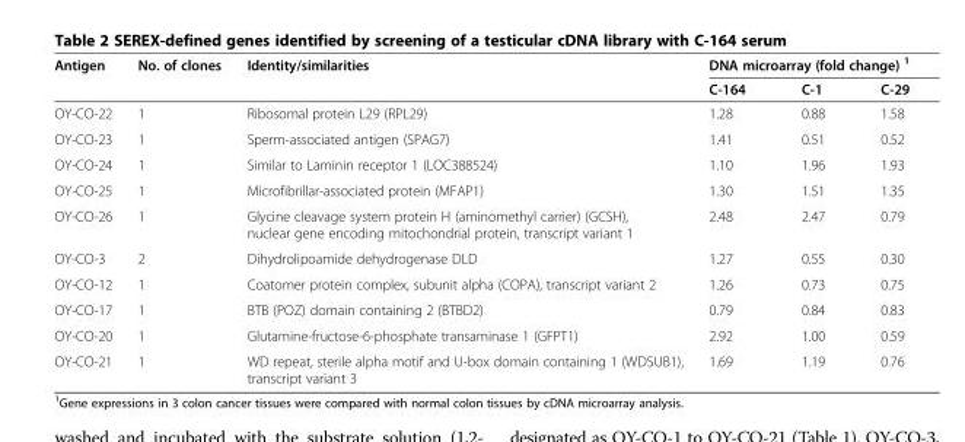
<table><thead><tr><td rowspan="2">Antigen</td><td rowspan="2">No. of clones</td><td rowspan="2">Identity/similarities</td><td colspan="3">DNA microarray (fold change) <sup>1</sup></td></tr><tr><td>C-164</td><td>C-1</td><td>C-29</td></tr></thead><tbody><tr><td>OY-CO-22</td><td>1</td><td>Ribosomal protein L29 (RPL29)</td><td>1.28</td><td>0.88</td><td>1.58</td></tr><tr><td>OY-CO-23</td><td>1</td><td>Sperm-associated antigen (SPAG7)</td><td>1.41</td><td>0.51</td><td>0.52</td></tr><tr><td>OY-CO-24</td><td>1</td><td>Similar to Laminin receptor 1 (LOC388524)</td><td>1.10</td><td>1.96</td><td>1.93</td></tr><tr><td>OY-CO-25</td><td>1</td><td>Microfibrillar-associated protein (MFAP1)</td><td>1.30</td><td>1.51</td><td>1.35</td></tr><tr><td>OY-CO-26</td><td>1</td><td>Glycine cleavage system protein H (aminomethyl carrier) (GCSH), nuclear gene encoding mitochondrial protein, transcript variant 1</td><td>2.48</td><td>2.47</td><td>0.79</td></tr><tr><td>OY-CO-3</td><td>2</td><td>Dihydrolipoamide dehydrogenase DLD</td><td>1.27</td><td>0.55</td><td>0.30</td></tr><tr><td>OY-CO-12</td><td>1</td><td>Coatomer protein complex, subunit alpha (COPA), transcript variant 2</td><td>1.26</td><td>0.73</td><td>0.75</td></tr><tr><td>OY-CO-17</td><td>1</td><td>BTB (POZ) domain containing 2 (BTBD2)</td><td>0.79</td><td>0.84</td><td>0.83</td></tr><tr><td>OY-CO-20</td><td>1</td><td>Glutamine-fructose-6-phosphate transaminase 1 (GFPT1)</td><td>2.92</td><td>1.00</td><td>0.59</td></tr><tr><td>OY-CO-21</td><td>1</td><td>WD repeat, sterile alpha motif and U-box domain containing 1 (WDSUB1), transcript variant 3</td><td>1.69</td><td>1.19</td><td>0.76</td></tr></tbody></table>